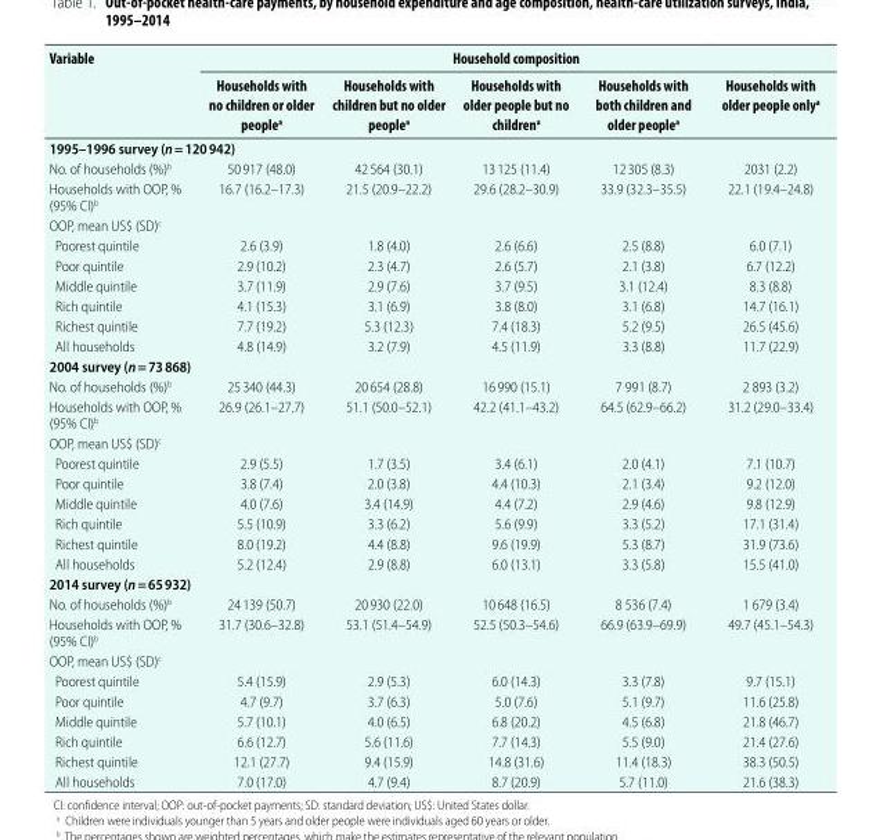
<table><thead><tr><td rowspan="2">Variable</td><td colspan="5">Household composition</td></tr><tr><td>Households with no children or older people<sup>a</sup></td><td>Households with children but no older people<sup>a</sup></td><td>Households with older people but no children<sup>a</sup></td><td>Households with both children and older people<sup>a</sup></td><td>Households with older people only<sup>a</sup></td></tr></thead><tbody><tr><td colspan="6">1995–1996 survey (n = 120 942)</td></tr><tr><td>No. of households (%)<sup>b</sup></td><td>50 917 (48.0)</td><td>42 564 (30.1)</td><td>13 125 (11.4)</td><td>12 305 (8.3)</td><td>2031 (2.2)</td></tr><tr><td>Households with OOP, % (95% CI)<sup>b</sup></td><td>16.7 (16.2–17.3)</td><td>21.5 (20.9–22.2)</td><td>29.6 (28.2–30.9)</td><td>33.9 (32.3–35.5)</td><td>22.1 (19.4–24.8)</td></tr><tr><td colspan="6">OOP, mean US$ (SD)<sup>c</sup></td></tr><tr><td>Poorest quintile</td><td>2.6 (3.9)</td><td>1.8 (4.0)</td><td>2.6 (6.6)</td><td>2.5 (8.8)</td><td>6.0 (7.1)</td></tr><tr><td>Poor quintile</td><td>2.9 (10.2)</td><td>2.3 (4.7)</td><td>2.6 (5.7)</td><td>2.1 (3.8)</td><td>6.7 (12.2)</td></tr><tr><td>Middle quintile</td><td>3.7 (11.9)</td><td>2.9 (7.6)</td><td>3.7 (9.5)</td><td>3.1 (12.4)</td><td>8.3 (8.8)</td></tr><tr><td>Rich quintile</td><td>4.1 (15.3)</td><td>3.1 (6.9)</td><td>3.8 (8.0)</td><td>3.1 (6.8)</td><td>14.7 (16.1)</td></tr><tr><td>Richest quintile</td><td>7.7 (19.2)</td><td>5.3 (12.3)</td><td>7.4 (18.3)</td><td>5.2 (9.5)</td><td>26.5 (45.6)</td></tr><tr><td>All households</td><td>4.8 (14.9)</td><td>3.2 (7.9)</td><td>4.5 (11.9)</td><td>3.3 (8.8)</td><td>11.7 (22.9)</td></tr><tr><td colspan="6">2004 survey (n = 73 868)</td></tr><tr><td>No. of households (%)<sup>b</sup></td><td>25 340 (44.3)</td><td>20 654 (28.8)</td><td>16 990 (15.1)</td><td>7 991 (8.7)</td><td>2 893 (3.2)</td></tr><tr><td>Households with OOP, % (95% CI)<sup>b</sup></td><td>26.9 (26.1–27.7)</td><td>51.1 (50.0–52.1)</td><td>42.2 (41.1–43.2)</td><td>64.5 (62.9–66.2)</td><td>31.2 (29.0–33.4)</td></tr><tr><td colspan="6">OOP, mean US$ (SD)<sup>c</sup></td></tr><tr><td>Poorest quintile</td><td>2.9 (5.5)</td><td>1.7 (3.5)</td><td>3.4 (6.1)</td><td>2.0 (4.1)</td><td>7.1 (10.7)</td></tr><tr><td>Poor quintile</td><td>3.8 (7.4)</td><td>2.0 (3.8)</td><td>4.4 (10.3)</td><td>2.1 (3.4)</td><td>9.2 (12.0)</td></tr><tr><td>Middle quintile</td><td>4.0 (7.6)</td><td>3.4 (14.9)</td><td>4.4 (7.2)</td><td>2.9 (4.6)</td><td>9.8 (12.9)</td></tr><tr><td>Rich quintile</td><td>5.5 (10.9)</td><td>3.3 (6.2)</td><td>5.6 (9.9)</td><td>3.3 (5.2)</td><td>17.1 (31.4)</td></tr><tr><td>Richest quintile</td><td>8.0 (19.2)</td><td>4.4 (8.8)</td><td>9.6 (19.9)</td><td>5.3 (8.7)</td><td>31.9 (73.6)</td></tr><tr><td>All households</td><td>5.2 (12.4)</td><td>2.9 (8.8)</td><td>6.0 (13.1)</td><td>3.3 (5.8)</td><td>15.5 (41.0)</td></tr><tr><td colspan="6">2014 survey (n = 65 932)</td></tr><tr><td>No. of households (%)<sup>b</sup></td><td>24 139 (50.7)</td><td>20 930 (22.0)</td><td>10 648 (16.5)</td><td>8 536 (7.4)</td><td>1 679 (3.4)</td></tr><tr><td>Households with OOP, % (95% CI)<sup>b</sup></td><td>31.7 (30.6–32.8)</td><td>53.1 (51.4–54.9)</td><td>52.5 (50.3–54.6)</td><td>66.9 (63.9–69.9)</td><td>49.7 (45.1–54.3)</td></tr><tr><td colspan="6">OOP, mean US$ (SD)<sup>c</sup></td></tr><tr><td>Poorest quintile</td><td>5.4 (15.9)</td><td>2.9 (5.3)</td><td>6.0 (14.3)</td><td>3.3 (7.8)</td><td>9.7 (15.1)</td></tr><tr><td>Poor quintile</td><td>4.7 (9.7)</td><td>3.7 (6.3)</td><td>5.0 (7.6)</td><td>5.1 (9.7)</td><td>11.6 (25.8)</td></tr><tr><td>Middle quintile</td><td>5.7 (10.1)</td><td>4.0 (6.5)</td><td>6.8 (20.2)</td><td>4.5 (6.8)</td><td>21.8 (46.7)</td></tr><tr><td>Rich quintile</td><td>6.6 (12.7)</td><td>5.6 (11.6)</td><td>7.7 (14.3)</td><td>5.5 (9.0)</td><td>21.4 (27.6)</td></tr><tr><td>Richest quintile</td><td>12.1 (27.7)</td><td>9.4 (15.9)</td><td>14.8 (31.6)</td><td>11.4 (18.3)</td><td>38.3 (50.5)</td></tr><tr><td>All households</td><td>7.0 (17.0)</td><td>4.7 (9.4)</td><td>8.7 (20.9)</td><td>5.7 (11.0)</td><td>21.6 (38.3)</td></tr></tbody></table>